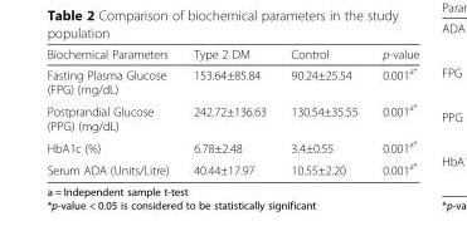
<table><thead><tr><td>Biochemical Parameters</td><td>Type 2 DM</td><td>Control</td><td>p-value</td></tr></thead><tbody><tr><td>Fasting Plasma Glucose (FPG) (mg/dL)</td><td>153.64±85.84</td><td>90.24±25.54</td><td>0.001<sup>a*</sup></td></tr><tr><td>Postprandial Glucose (PPG) (mg/dL)</td><td>242.72±136.63</td><td>130.54±35.55</td><td>0.001<sup>a*</sup></td></tr><tr><td>HbA1c (%)</td><td>6.78±2.48</td><td>3.4±0.55</td><td>0.001<sup>a*</sup></td></tr><tr><td>Serum ADA (Units/Litre)</td><td>40.44±17.97</td><td>10.55±2.20</td><td>0.001<sup>a*</sup></td></tr></tbody></table>